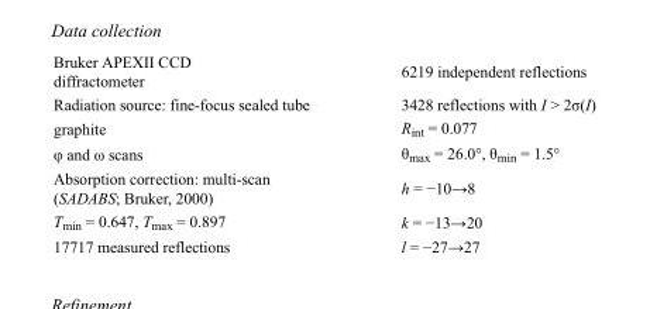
<table><tbody><tr><td>Bruker APEXII CCD diffractometer</td><td>6219 independent reflections</td></tr><tr><td>Radiation source: fine-focus sealed tube</td><td>3428 reflections with I &gt; 2σ(I)</td></tr><tr><td>graphite</td><td>R<sub>int</sub> = 0.077</td></tr><tr><td>φ and ω scans</td><td>θ<sub>max</sub> = 26.0°, θ<sub>min</sub> = 1.5°</td></tr><tr><td>Absorption correction: multi-scan (SADABS; Bruker, 2000)</td><td>h = −10→8</td></tr><tr><td>T<sub>min</sub> = 0.647, T<sub>max</sub> = 0.897</td><td>k = −13→20</td></tr><tr><td>17717 measured reflections</td><td>l = −27→27</td></tr></tbody></table>